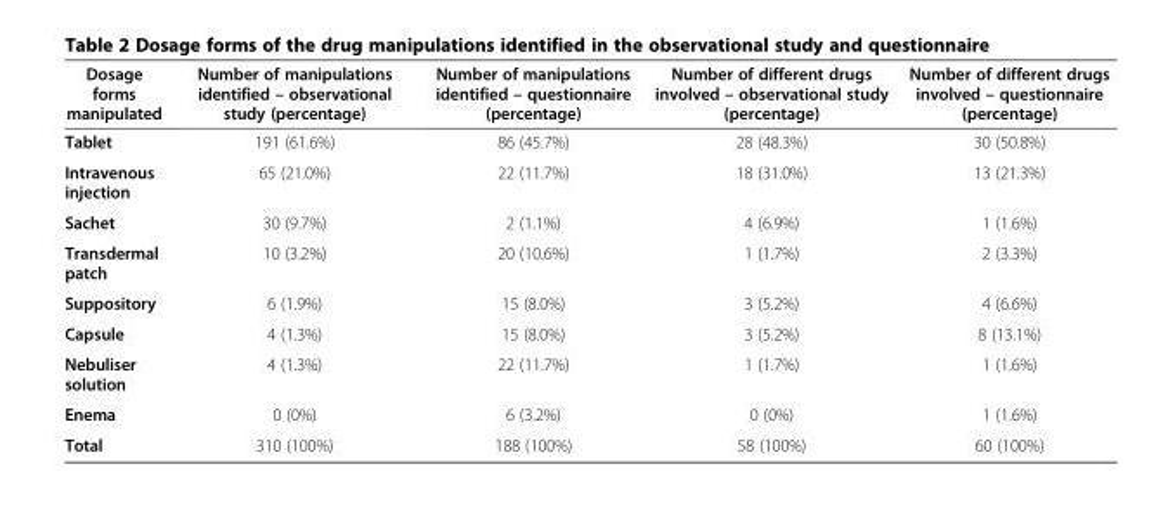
<table><thead><tr><td>Dosage forms manipulated</td><td>Number of manipulations identified – observational study (percentage)</td><td>Number of manipulations identified – questionnaire (percentage)</td><td>Number of different drugs involved – observational study (percentage)</td><td>Number of different drugs involved – questionnaire (percentage)</td></tr></thead><tbody><tr><td>Tablet</td><td>191 (61.6%)</td><td>86 (45.7%)</td><td>28 (48.3%)</td><td>30 (50.8%)</td></tr><tr><td>Intravenous injection</td><td>65 (21.0%)</td><td>22 (11.7%)</td><td>18 (31.0%)</td><td>13 (21.3%)</td></tr><tr><td>Sachet</td><td>30 (9.7%)</td><td>2 (1.1%)</td><td>4 (6.9%)</td><td>1 (1.6%)</td></tr><tr><td>Transdermal patch</td><td>10 (3.2%)</td><td>20 (10.6%)</td><td>1 (1.7%)</td><td>2 (3.3%)</td></tr><tr><td>Suppository</td><td>6 (1.9%)</td><td>15 (8.0%)</td><td>3 (5.2%)</td><td>4 (6.6%)</td></tr><tr><td>Capsule</td><td>4 (1.3%)</td><td>15 (8.0%)</td><td>3 (5.2%)</td><td>8 (13.1%)</td></tr><tr><td>Nebuliser solution</td><td>4 (1.3%)</td><td>22 (11.7%)</td><td>1 (1.7%)</td><td>1 (1.6%)</td></tr><tr><td>Enema</td><td>0 (0%)</td><td>6 (3.2%)</td><td>0 (0%)</td><td>1 (1.6%)</td></tr><tr><td>Total</td><td>310 (100%)</td><td>188 (100%)</td><td>58 (100%)</td><td>60 (100%)</td></tr></tbody></table>